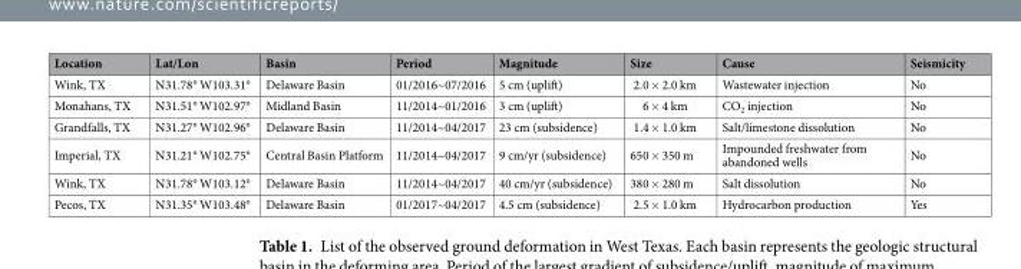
<table><thead><tr><td>Location</td><td>Lat/Lon</td><td>Basin</td><td>Period</td><td>Magnitude</td><td>Size</td><td>Cause</td><td>Seismicity</td></tr></thead><tbody><tr><td>Wink, TX</td><td>N31.78° W103.31°</td><td>Delaware Basin</td><td>01/2016~07/2016</td><td>5 cm (uplift)</td><td>2.0 × 2.0 km</td><td>Wastewater injection</td><td>No</td></tr><tr><td>Monahans, TX</td><td>N31.51° W102.97°</td><td>Midland Basin</td><td>11/2014~01/2016</td><td>3 cm (uplift)</td><td>6 × 4 km</td><td>CO<sub>2</sub> injection</td><td>No</td></tr><tr><td>Grandfalls, TX</td><td>N31.27° W102.96°</td><td>Delaware Basin</td><td>11/2014~04/2017</td><td>23 cm (subsidence)</td><td>1.4 × 1.0 km</td><td>Salt/limestone dissolution</td><td>No</td></tr><tr><td>Imperial, TX</td><td>N31.21° W102.75°</td><td>Central Basin Platform</td><td>11/2014~04/2017</td><td>9 cm/yr (subsidence)</td><td>650 × 350 m</td><td>Impounded freshwater from abandoned wells</td><td>No</td></tr><tr><td>Wink, TX</td><td>N31.78° W103.12°</td><td>Delaware Basin</td><td>11/2014~04/2017</td><td>40 cm/yr (subsidence)</td><td>380 × 280 m</td><td>Salt dissolution</td><td>No</td></tr><tr><td>Pecos, TX</td><td>N31.35° W103.48°</td><td>Delaware Basin</td><td>01/2017~04/2017</td><td>4.5 cm (subsidence)</td><td>2.5 × 1.0 km</td><td>Hydrocarbon production</td><td>Yes</td></tr></tbody></table>